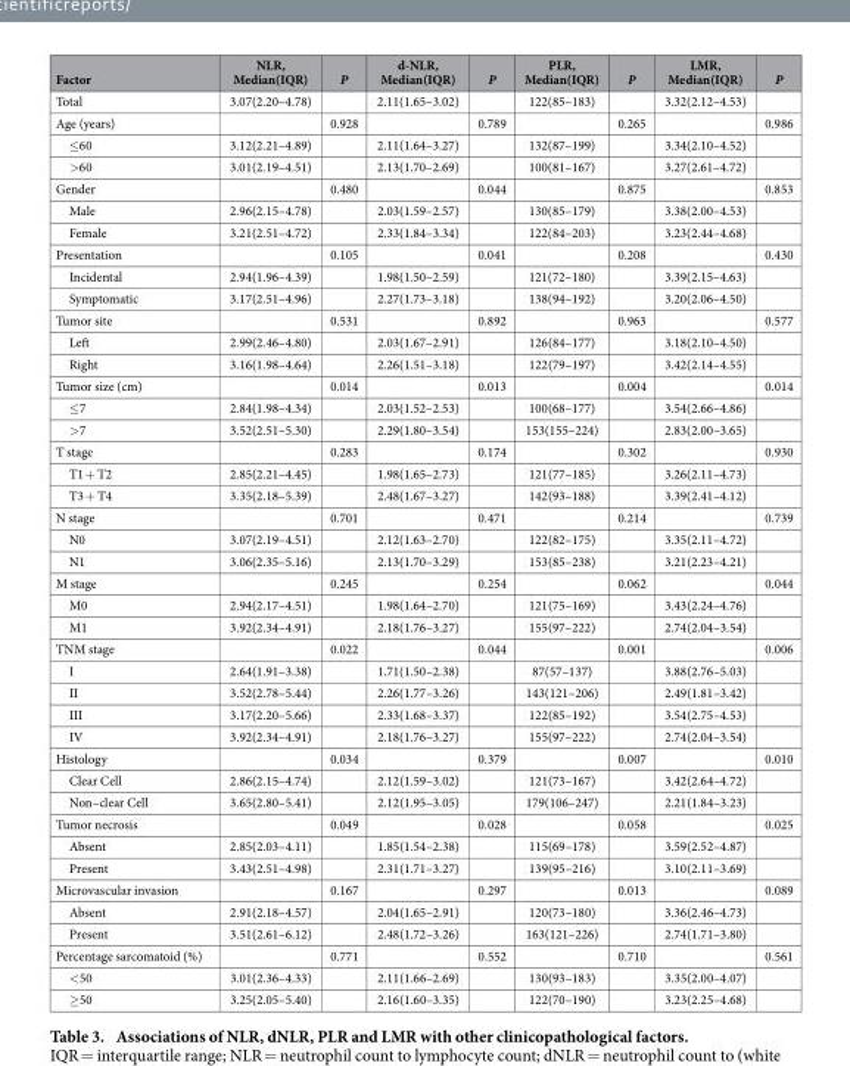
<table><thead><tr><td>Factor</td><td>NLR, Median(IQR)</td><td>P</td><td>d-NLR, Median(IQR)</td><td>P</td><td>PLR, Median(IQR)</td><td>P</td><td>LMR, Median(IQR)</td><td>P</td></tr></thead><tbody><tr><td>Total</td><td>3.07(2.20–4.78)</td><td></td><td>2.11(1.65–3.02)</td><td></td><td>122(85–183)</td><td></td><td>3.32(2.12–4.53)</td><td></td></tr><tr><td>Age (years)</td><td></td><td>0.928</td><td></td><td>0.789</td><td></td><td>0.265</td><td></td><td>0.986</td></tr><tr><td>≤60</td><td>3.12(2.21–4.89)</td><td></td><td>2.11(1.64–3.27)</td><td></td><td>132(87–199)</td><td></td><td>3.34(2.10–4.52)</td><td></td></tr><tr><td>&gt;60</td><td>3.01(2.19–4.51)</td><td></td><td>2.13(1.70–2.69)</td><td></td><td>100(81–167)</td><td></td><td>3.27(2.61–4.72)</td><td></td></tr><tr><td>Gender</td><td></td><td>0.480</td><td></td><td>0.044</td><td></td><td>0.875</td><td></td><td>0.853</td></tr><tr><td>Male</td><td>2.96(2.15–4.78)</td><td></td><td>2.03(1.59–2.57)</td><td></td><td>130(85–179)</td><td></td><td>3.38(2.00–4.53)</td><td></td></tr><tr><td>Female</td><td>3.21(2.51–4.72)</td><td></td><td>2.33(1.84–3.34)</td><td></td><td>122(84–203)</td><td></td><td>3.23(2.44–4.68)</td><td></td></tr><tr><td>Presentation</td><td></td><td>0.105</td><td></td><td>0.041</td><td></td><td>0.208</td><td></td><td>0.430</td></tr><tr><td>Incidental</td><td>2.94(1.96–4.39)</td><td></td><td>1.98(1.50–2.59)</td><td></td><td>121(72–180)</td><td></td><td>3.39(2.15–4.63)</td><td></td></tr><tr><td>Symptomatic</td><td>3.17(2.51–4.96)</td><td></td><td>2.27(1.73–3.18)</td><td></td><td>138(94–192)</td><td></td><td>3.20(2.06–4.50)</td><td></td></tr><tr><td>Tumor site</td><td></td><td>0.531</td><td></td><td>0.892</td><td></td><td>0.963</td><td></td><td>0.577</td></tr><tr><td>Left</td><td>2.99(2.46–4.80)</td><td></td><td>2.03(1.67–2.91)</td><td></td><td>126(84–177)</td><td></td><td>3.18(2.10–4.50)</td><td></td></tr><tr><td>Right</td><td>3.16(1.98–4.64)</td><td></td><td>2.26(1.51–3.18)</td><td></td><td>122(79–197)</td><td></td><td>3.42(2.14–4.55)</td><td></td></tr><tr><td>Tumor size (cm)</td><td></td><td>0.014</td><td></td><td>0.013</td><td></td><td>0.004</td><td></td><td>0.014</td></tr><tr><td>≤7</td><td>2.84(1.98–4.34)</td><td></td><td>2.03(1.52–2.53)</td><td></td><td>100(68–177)</td><td></td><td>3.54(2.66–4.86)</td><td></td></tr><tr><td>&gt;7</td><td>3.52(2.51–5.30)</td><td></td><td>2.29(1.80–3.54)</td><td></td><td>153(155–224)</td><td></td><td>2.83(2.00–3.65)</td><td></td></tr><tr><td>T stage</td><td></td><td>0.283</td><td></td><td>0.174</td><td></td><td>0.302</td><td></td><td>0.930</td></tr><tr><td>T1 + T2</td><td>2.85(2.21–4.45)</td><td></td><td>1.98(1.65–2.73)</td><td></td><td>121(77–185)</td><td></td><td>3.26(2.11–4.73)</td><td></td></tr><tr><td>T3 + T4</td><td>3.35(2.18–5.39)</td><td></td><td>2.48(1.67–3.27)</td><td></td><td>142(93–188)</td><td></td><td>3.39(2.41–4.12)</td><td></td></tr><tr><td>N stage</td><td></td><td>0.701</td><td></td><td>0.471</td><td></td><td>0.214</td><td></td><td>0.739</td></tr><tr><td>N0</td><td>3.07(2.19–4.51)</td><td></td><td>2.12(1.63–2.70)</td><td></td><td>122(82–175)</td><td></td><td>3.35(2.11–4.72)</td><td></td></tr><tr><td>N1</td><td>3.06(2.35–5.16)</td><td></td><td>2.13(1.70–3.29)</td><td></td><td>153(85–238)</td><td></td><td>3.21(2.23–4.21)</td><td></td></tr><tr><td>M stage</td><td></td><td>0.245</td><td></td><td>0.254</td><td></td><td>0.062</td><td></td><td>0.044</td></tr><tr><td>M0</td><td>2.94(2.17–4.51)</td><td></td><td>1.98(1.64–2.70)</td><td></td><td>121(75–169)</td><td></td><td>3.43(2.24–4.76)</td><td></td></tr><tr><td>M1</td><td>3.92(2.34–4.91)</td><td></td><td>2.18(1.76–3.27)</td><td></td><td>155(97–222)</td><td></td><td>2.74(2.04–3.54)</td><td></td></tr><tr><td>TNM stage</td><td></td><td>0.022</td><td></td><td>0.044</td><td></td><td>0.001</td><td></td><td>0.006</td></tr><tr><td>I</td><td>2.64(1.91–3.38)</td><td></td><td>1.71(1.50–2.38)</td><td></td><td>87(57–137)</td><td></td><td>3.88(2.76–5.03)</td><td></td></tr><tr><td>II</td><td>3.52(2.78–5.44)</td><td></td><td>2.26(1.77–3.26)</td><td></td><td>143(121–206)</td><td></td><td>2.49(1.81–3.42)</td><td></td></tr><tr><td>III</td><td>3.17(2.20–5.66)</td><td></td><td>2.33(1.68–3.37)</td><td></td><td>122(85–192)</td><td></td><td>3.54(2.75–4.53)</td><td></td></tr><tr><td>IV</td><td>3.92(2.34–4.91)</td><td></td><td>2.18(1.76–3.27)</td><td></td><td>155(97–222)</td><td></td><td>2.74(2.04–3.54)</td><td></td></tr><tr><td>Histology</td><td></td><td>0.034</td><td></td><td>0.379</td><td></td><td>0.007</td><td></td><td>0.010</td></tr><tr><td>Clear Cell</td><td>2.86(2.15–4.74)</td><td></td><td>2.12(1.59–3.02)</td><td></td><td>121(73–167)</td><td></td><td>3.42(2.64–4.72)</td><td></td></tr><tr><td>Non–clear Cell</td><td>3.65(2.80–5.41)</td><td></td><td>2.12(1.95–3.05)</td><td></td><td>179(106–247)</td><td></td><td>2.21(1.84–3.23)</td><td></td></tr><tr><td>Tumor necrosis</td><td></td><td>0.049</td><td></td><td>0.028</td><td></td><td>0.058</td><td></td><td>0.025</td></tr><tr><td>Absent</td><td>2.85(2.03–4.11)</td><td></td><td>1.85(1.54–2.38)</td><td></td><td>115(69–178)</td><td></td><td>3.59(2.52–4.87)</td><td></td></tr><tr><td>Present</td><td>3.43(2.51–4.98)</td><td></td><td>2.31(1.71–3.27)</td><td></td><td>139(95–216)</td><td></td><td>3.10(2.11–3.69)</td><td></td></tr><tr><td>Microvascular invasion</td><td></td><td>0.167</td><td></td><td>0.297</td><td></td><td>0.013</td><td></td><td>0.089</td></tr><tr><td>Absent</td><td>2.91(2.18–4.57)</td><td></td><td>2.04(1.65–2.91)</td><td></td><td>120(73–180)</td><td></td><td>3.36(2.46–4.73)</td><td></td></tr><tr><td>Present</td><td>3.51(2.61–6.12)</td><td></td><td>2.48(1.72–3.26)</td><td></td><td>163(121–226)</td><td></td><td>2.74(1.71–3.80)</td><td></td></tr><tr><td>Percentage sarcomatoid (%)</td><td></td><td>0.771</td><td></td><td>0.552</td><td></td><td>0.710</td><td></td><td>0.561</td></tr><tr><td>&lt;50</td><td>3.01(2.36–4.33)</td><td></td><td>2.11(1.66–2.69)</td><td></td><td>130(93–183)</td><td></td><td>3.35(2.00–4.07)</td><td></td></tr><tr><td>≥50</td><td>3.25(2.05–5.40)</td><td></td><td>2.16(1.60–3.35)</td><td></td><td>122(70–190)</td><td></td><td>3.23(2.25–4.68)</td><td></td></tr></tbody></table>